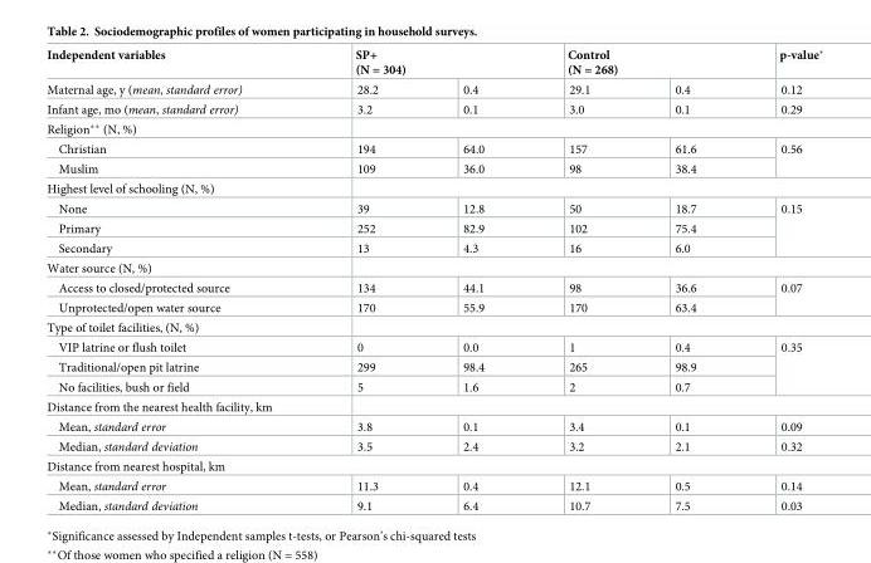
<table><thead><tr><td rowspan="2">Independent variables Maternal age, y (mean, standard error)</td><td colspan="2">SP+ (N = 304)</td><td colspan="2">Control (N = 268)</td><td rowspan="2">p-value* 0.12</td></tr><tr><td>28.2</td><td>0.4</td><td>29.1</td><td>0.4</td></tr></thead><tbody><tr><td>Infant age, mo (mean, standard error)</td><td>3.2</td><td>0.1</td><td>3.0</td><td>0.1</td><td>0.29</td></tr><tr><td colspan="6">Religion** (N, %)</td></tr><tr><td>Christian</td><td>194</td><td>64.0</td><td>157</td><td>61.6</td><td rowspan="2">0.56</td></tr><tr><td>Muslim</td><td>109</td><td>36.0</td><td>98</td><td>38.4</td></tr><tr><td colspan="6">Highest level of schooling (N, %)</td></tr><tr><td>None</td><td>39</td><td>12.8</td><td>50</td><td>18.7</td><td rowspan="3">0.15</td></tr><tr><td>Primary</td><td>252</td><td>82.9</td><td>102</td><td>75.4</td></tr><tr><td>Secondary</td><td>13</td><td>4.3</td><td>16</td><td>6.0</td></tr><tr><td colspan="6">Water source (N, %)</td></tr><tr><td>Access to closed/protected source</td><td>134</td><td>44.1</td><td>98</td><td>36.6</td><td rowspan="2">0.07</td></tr><tr><td>Unprotected/open water source</td><td>170</td><td>55.9</td><td>170</td><td>63.4</td></tr><tr><td colspan="6">Type of toilet facilities, (N, %)</td></tr><tr><td>VIP latrine or flush toilet</td><td>0</td><td>0.0</td><td>1</td><td>0.4</td><td rowspan="3">0.35</td></tr><tr><td>Traditional/open pit latrine</td><td>299</td><td>98.4</td><td>265</td><td>98.9</td></tr><tr><td>No facilities, bush or field</td><td>5</td><td>1.6</td><td>2</td><td>0.7</td></tr><tr><td colspan="6">Distance from the nearest health facility, km</td></tr><tr><td>Mean, standard error</td><td>3.8</td><td>0.1</td><td>3.4</td><td>0.1</td><td>0.09</td></tr><tr><td>Median, standard deviation</td><td>3.5</td><td>2.4</td><td>3.2</td><td>2.1</td><td>0.32</td></tr><tr><td colspan="6">Distance from nearest hospital, km</td></tr><tr><td>Mean, standard error</td><td>11.3</td><td>0.4</td><td>12.1</td><td>0.5</td><td>0.14</td></tr><tr><td>Median, standard deviation</td><td>9.1</td><td>6.4</td><td>10.7</td><td>7.5</td><td>0.03</td></tr></tbody></table>